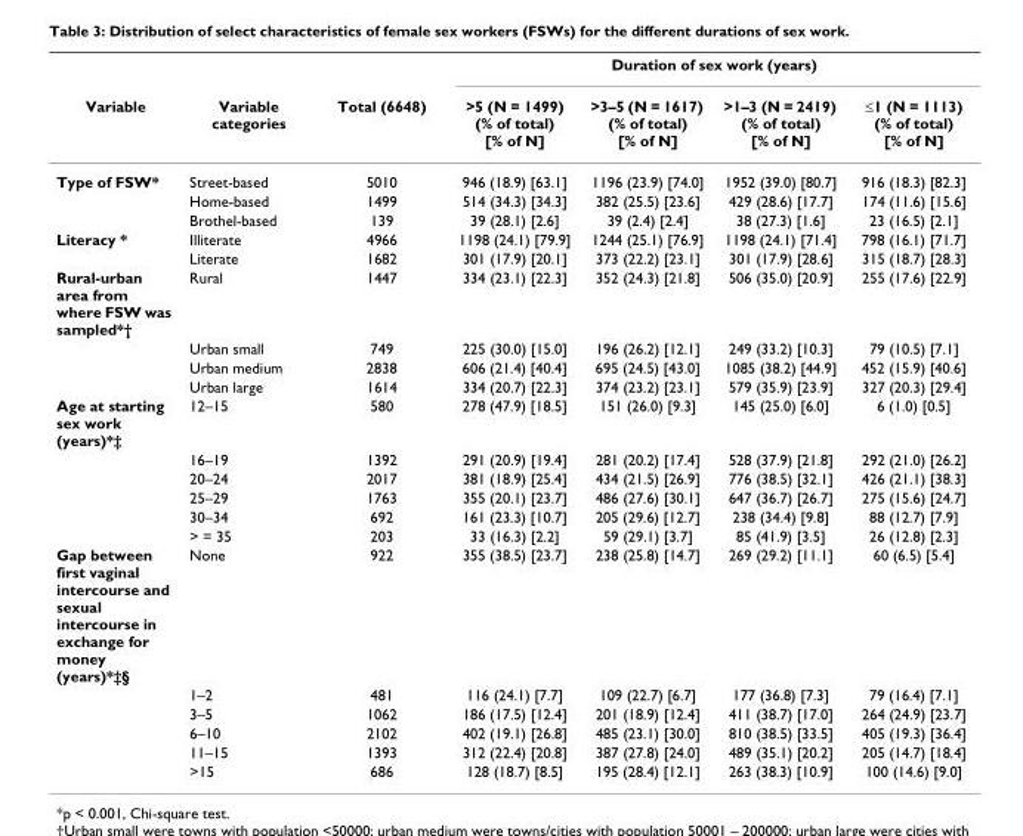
<table><thead><tr><td rowspan="2">Variable</td><td rowspan="2">Variable categories</td><td rowspan="2">Total (6648)</td><td colspan="4">Duration of sex work (years)</td></tr><tr><td>&gt;5 (N = 1499) (% of total) [% of N]</td><td>&gt;3–5 (N = 1617) (% of total) [% of N]</td><td>&gt;1–3 (N = 2419) (% of total) [% of N]</td><td>≤1 (N = 1113) (% of total) [% of N]</td></tr></thead><tbody><tr><td rowspan="3">Type of FSW*</td><td>Street-based</td><td>5010</td><td>946 (18.9) [63.1]</td><td>1196 (23.9) [74.0]</td><td>1952 (39.0) [80.7]</td><td>916 (18.3) [82.3]</td></tr><tr><td>Home-based</td><td>1499</td><td>514 (34.3) [34.3]</td><td>382 (25.5) [23.6]</td><td>429 (28.6) [17.7]</td><td>174 (11.6) [15.6]</td></tr><tr><td>Brothel-based</td><td>139</td><td>39 (28.1) [2.6]</td><td>39 (2.4) [2.4]</td><td>38 (27.3) [1.6]</td><td>23 (16.5) [2.1]</td></tr><tr><td rowspan="2">Literacy *</td><td>Illiterate</td><td>4966</td><td>1198 (24.1) [79.9]</td><td>1244 (25.1) [76.9]</td><td>1198 (24.1) [71.4]</td><td>798 (16.1) [71.7]</td></tr><tr><td>Literate</td><td>1682</td><td>301 (17.9) [20.1]</td><td>373 (22.2) [23.1]</td><td>301 (17.9) [28.6]</td><td>315 (18.7) [28.3]</td></tr><tr><td rowspan="4">Rural-urban area from where FSW was sampled*†</td><td>Rural</td><td>1447</td><td>334 (23.1) [22.3]</td><td>352 (24.3) [21.8]</td><td>506 (35.0) [20.9]</td><td>255 (17.6) [22.9]</td></tr><tr><td>Urban small</td><td>749</td><td>225 (30.0) [15.0]</td><td>196 (26.2) [12.1]</td><td>249 (33.2) [10.3]</td><td>79 (10.5) [7.1]</td></tr><tr><td>Urban medium</td><td>2838</td><td>606 (21.4) [40.4]</td><td>695 (24.5) [43.0]</td><td>1085 (38.2) [44.9]</td><td>452 (15.9) [40.6]</td></tr><tr><td>Urban large</td><td>1614</td><td>334 (20.7) [22.3]</td><td>374 (23.2) [23.1]</td><td>579 (35.9) [23.9]</td><td>327 (20.3) [29.4]</td></tr><tr><td rowspan="6">Age at starting sex work (years)*‡</td><td>12–15</td><td>580</td><td>278 (47.9) [18.5]</td><td>151 (26.0) [9.3]</td><td>145 (25.0) [6.0]</td><td>6 (1.0) [0.5]</td></tr><tr><td>16–19</td><td>1392</td><td>291 (20.9) [19.4]</td><td>281 (20.2) [17.4]</td><td>528 (37.9) [21.8]</td><td>292 (21.0) [26.2]</td></tr><tr><td>20–24</td><td>2017</td><td>381 (18.9) [25.4]</td><td>434 (21.5) [26.9]</td><td>776 (38.5) [32.1]</td><td>426 (21.1) [38.3]</td></tr><tr><td>25–29</td><td>1763</td><td>355 (20.1) [23.7]</td><td>486 (27.6) [30.1]</td><td>647 (36.7) [26.7]</td><td>275 (15.6) [24.7]</td></tr><tr><td>30–34</td><td>692</td><td>161 (23.3) [10.7]</td><td>205 (29.6) [12.7]</td><td>238 (34.4) [9.8]</td><td>88 (12.7) [7.9]</td></tr><tr><td>&gt; = 35</td><td>203</td><td>33 (16.3) [2.2]</td><td>59 (29.1) [3.7]</td><td>85 (41.9) [3.5]</td><td>26 (12.8) [2.3]</td></tr><tr><td rowspan="6">Gap between first vaginal intercourse and sexual intercourse in exchange for money (years)*‡§</td><td>None</td><td>922</td><td>355 (38.5) [23.7]</td><td>238 (25.8) [14.7]</td><td>269 (29.2) [11.1]</td><td>60 (6.5) [5.4]</td></tr><tr><td>1–2</td><td>481</td><td>116 (24.1) [7.7]</td><td>109 (22.7) [6.7]</td><td>177 (36.8) [7.3]</td><td>79 (16.4) [7.1]</td></tr><tr><td>3–5</td><td>1062</td><td>186 (17.5) [12.4]</td><td>201 (18.9) [12.4]</td><td>411 (38.7) [17.0]</td><td>264 (24.9) [23.7]</td></tr><tr><td>6–10</td><td>2102</td><td>402 (19.1) [26.8]</td><td>485 (23.1) [30.0]</td><td>810 (38.5) [33.5]</td><td>405 (19.3) [36.4]</td></tr><tr><td>11–15</td><td>1393</td><td>312 (22.4) [20.8]</td><td>387 (27.8) [24.0]</td><td>489 (35.1) [20.2]</td><td>205 (14.7) [18.4]</td></tr><tr><td>&gt;15</td><td>686</td><td>128 (18.7) [8.5]</td><td>195 (28.4) [12.1]</td><td>263 (38.3) [10.9]</td><td>100 (14.6) [9.0]</td></tr></tbody></table>